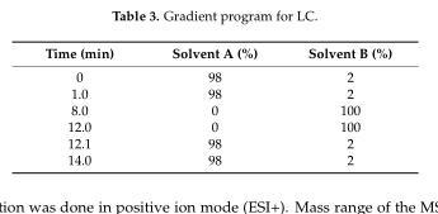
<table><thead><tr><td>Time (min)</td><td>Solvent A (%)</td><td>Solvent B (%)</td></tr></thead><tbody><tr><td>0</td><td>98</td><td>2</td></tr><tr><td>1.0</td><td>98</td><td>2</td></tr><tr><td>8.0</td><td>0</td><td>100</td></tr><tr><td>12.0</td><td>0</td><td>100</td></tr><tr><td>12.1</td><td>98</td><td>2</td></tr><tr><td>14.0</td><td>98</td><td>2</td></tr></tbody></table>